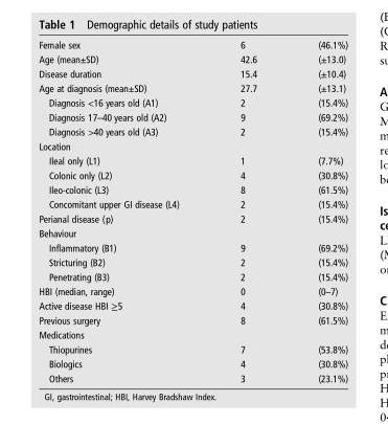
<table><tbody><tr><td>Female sex</td><td>6</td><td>(46.1%)</td></tr><tr><td>Age (mean±SD)</td><td>42.6</td><td>(±13.0)</td></tr><tr><td>Disease duration</td><td>15.4</td><td>(±10.4)</td></tr><tr><td>Age at diagnosis (mean±SD)</td><td>27.7</td><td>(±13.1)</td></tr><tr><td>Diagnosis &lt;16 years old (A1)</td><td>2</td><td>(15.4%)</td></tr><tr><td>Diagnosis 17–40 years old (A2)</td><td>9</td><td>(69.2%)</td></tr><tr><td>Diagnosis &gt;40 years old (A3)</td><td>2</td><td>(15.4%)</td></tr><tr><td colspan="3">Location</td></tr><tr><td>Ileal only (L1)</td><td>1</td><td>(7.7%)</td></tr><tr><td>Colonic only (L2)</td><td>4</td><td>(30.8%)</td></tr><tr><td>Ileo-colonic (L3)</td><td>8</td><td>(61.5%)</td></tr><tr><td>Concomitant upper GI disease (L4)</td><td>2</td><td>(15.4%)</td></tr><tr><td>Perianal disease (p)</td><td>2</td><td>(15.4%)</td></tr><tr><td colspan="3">Behaviour</td></tr><tr><td>Inflammatory (B1)</td><td>9</td><td>(69.2%)</td></tr><tr><td>Stricturing (B2)</td><td>2</td><td>(15.4%)</td></tr><tr><td>Penetrating (B3)</td><td>2</td><td>(15.4%)</td></tr><tr><td>HBI (median, range)</td><td>0</td><td>(0–7)</td></tr><tr><td>Active disease HBI ≥5</td><td>4</td><td>(30.8%)</td></tr><tr><td>Previous surgery</td><td>8</td><td>(61.5%)</td></tr><tr><td colspan="3">Medications</td></tr><tr><td>Thiopurines</td><td>7</td><td>(53.8%)</td></tr><tr><td>Biologics</td><td>4</td><td>(30.8%)</td></tr><tr><td>Others</td><td>3</td><td>(23.1%)</td></tr></tbody></table>